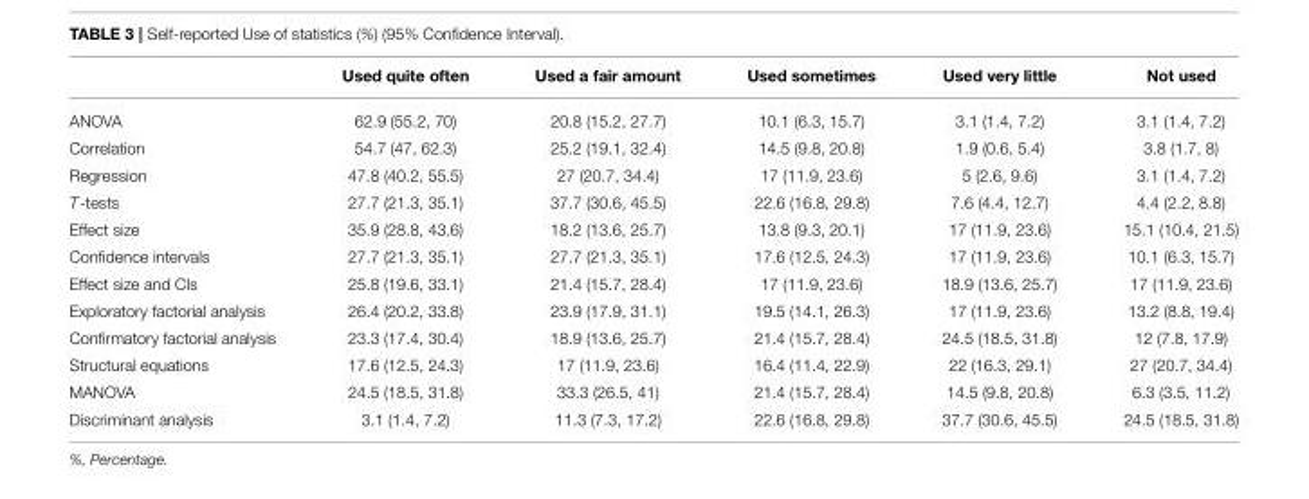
<table><thead><tr><td></td><td>Used quite often</td><td>Used a fair amount</td><td>Used sometimes</td><td>Used very little</td><td>Not used</td></tr></thead><tbody><tr><td>ANOVA</td><td>62.9 (55.2, 70)</td><td>20.8 (15.2, 27.7)</td><td>10.1 (6.3, 15.7)</td><td>3.1 (1.4, 7.2)</td><td>3.1 (1.4, 7.2)</td></tr><tr><td>Correlation</td><td>54.7 (47, 62.3)</td><td>25.2 (19.1, 32.4)</td><td>14.5 (9.8, 20.8)</td><td>1.9 (0.6, 5.4)</td><td>3.8 (1.7, 8)</td></tr><tr><td>Regression</td><td>47.8 (40.2, 55.5)</td><td>27 (20.7, 34.4)</td><td>17 (11.9, 23.6)</td><td>5 (2.6, 9.6)</td><td>3.1 (1.4, 7.2)</td></tr><tr><td>T-tests</td><td>27.7 (21.3, 35.1)</td><td>37.7 (30.6, 45.5)</td><td>22.6 (16.8, 29.8)</td><td>7.6 (4.4, 12.7)</td><td>4.4 (2.2, 8.8)</td></tr><tr><td>Effect size</td><td>35.9 (28.8, 43.6)</td><td>18.2 (13.6, 25.7)</td><td>13.8 (9.3, 20.1)</td><td>17 (11.9, 23.6)</td><td>15.1 (10.4, 21.5)</td></tr><tr><td>Confidence intervals</td><td>27.7 (21.3, 35.1)</td><td>27.7 (21.3, 35.1)</td><td>17.6 (12.5, 24.3)</td><td>17 (11.9, 23.6)</td><td>10.1 (6.3, 15.7)</td></tr><tr><td>Effect size and CIs</td><td>25.8 (19.6, 33.1)</td><td>21.4 (15.7, 28.4)</td><td>17 (11.9, 23.6)</td><td>18.9 (13.6, 25.7)</td><td>17 (11.9, 23.6)</td></tr><tr><td>Exploratory factorial analysis</td><td>26.4 (20.2, 33.8)</td><td>23.9 (17.9, 31.1)</td><td>19.5 (14.1, 26.3)</td><td>17 (11.9, 23.6)</td><td>13.2 (8.8, 19.4)</td></tr><tr><td>Confirmatory factorial analysis</td><td>23.3 (17.4, 30.4)</td><td>18.9 (13.6, 25.7)</td><td>21.4 (15.7, 28.4)</td><td>24.5 (18.5, 31.8)</td><td>12 (7.8, 17.9)</td></tr><tr><td>Structural equations</td><td>17.6 (12.5, 24.3)</td><td>17 (11.9, 23.6)</td><td>16.4 (11.4, 22.9)</td><td>22 (16.3, 29.1)</td><td>27 (20.7, 34.4)</td></tr><tr><td>MANOVA</td><td>24.5 (18.5, 31.8)</td><td>33.3 (26.5, 41)</td><td>21.4 (15.7, 28.4)</td><td>14.5 (9.8, 20.8)</td><td>6.3 (3.5, 11.2)</td></tr><tr><td>Discriminant analysis</td><td>3.1 (1.4, 7.2)</td><td>11.3 (7.3, 17.2)</td><td>22.6 (16.8, 29.8)</td><td>37.7 (30.6, 45.5)</td><td>24.5 (18.5, 31.8)</td></tr></tbody></table>